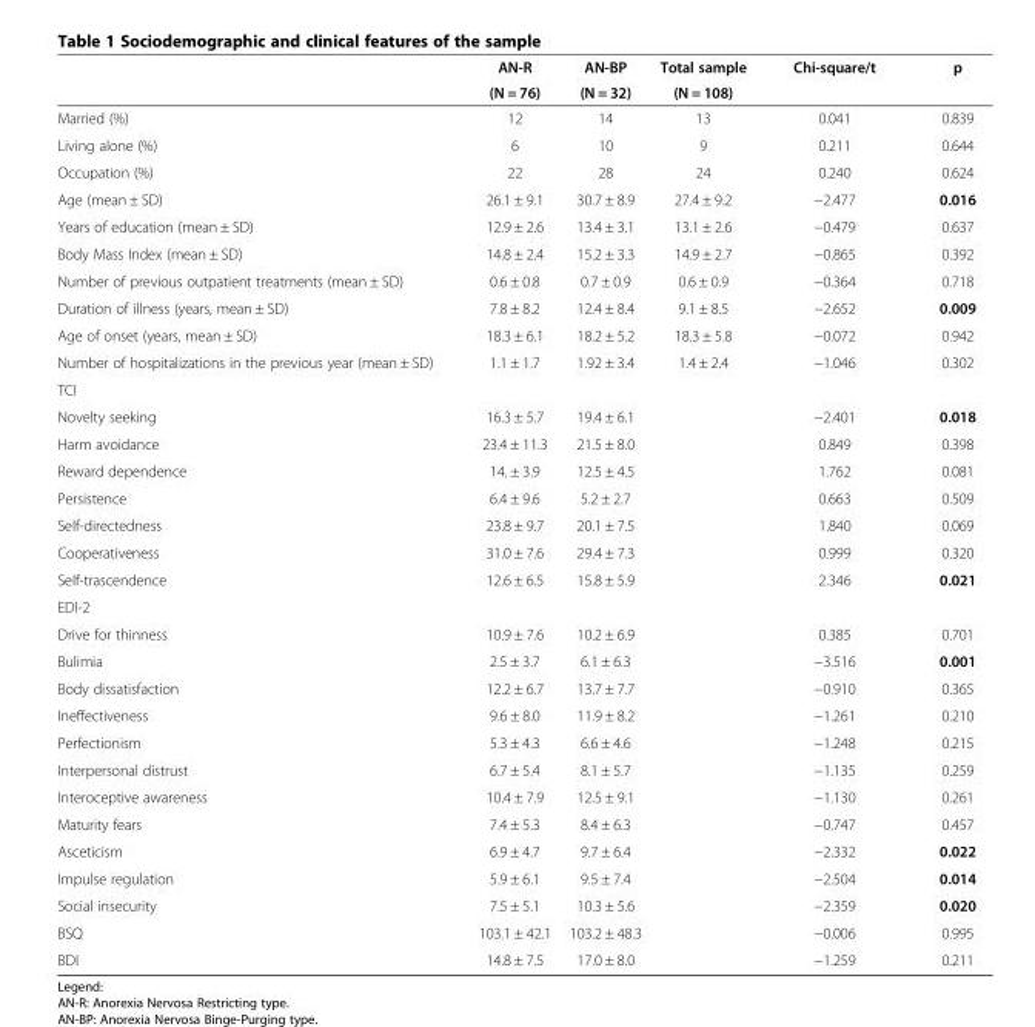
<table><thead><tr><td rowspan="2"></td><td rowspan="2">AN-R (N = 76)</td><td rowspan="2">AN-BP (N = 32)</td><td rowspan="2">Total sample (N = 108)</td><td rowspan="2">Chi-square/t</td><td rowspan="2">p</td></tr><tr></tr></thead><tbody><tr><td>Married (%)</td><td>12</td><td>14</td><td>13</td><td>0.041</td><td>0.839</td></tr><tr><td>Living alone (%)</td><td>6</td><td>10</td><td>9</td><td>0.211</td><td>0.644</td></tr><tr><td>Occupation (%)</td><td>22</td><td>28</td><td>24</td><td>0.240</td><td>0.624</td></tr><tr><td>Age (mean ± SD)</td><td>26.1 ± 9.1</td><td>30.7 ± 8.9</td><td>27.4 ± 9.2</td><td>−2.477</td><td>0.016</td></tr><tr><td>Years of education (mean ± SD)</td><td>12.9 ± 2.6</td><td>13.4 ± 3.1</td><td>13.1 ± 2.6</td><td>−0.479</td><td>0.637</td></tr><tr><td>Body Mass Index (mean ± SD)</td><td>14.8 ± 2.4</td><td>15.2 ± 3.3</td><td>14.9 ± 2.7</td><td>−0.865</td><td>0.392</td></tr><tr><td>Number of previous outpatient treatments (mean ± SD)</td><td>0.6 ± 0.8</td><td>0.7 ± 0.9</td><td>0.6 ± 0.9</td><td>−0.364</td><td>0.718</td></tr><tr><td>Duration of illness (years, mean ± SD)</td><td>7.8 ± 8.2</td><td>12.4 ± 8.4</td><td>9.1 ± 8.5</td><td>−2.652</td><td>0.009</td></tr><tr><td>Age of onset (years, mean ± SD)</td><td>18.3 ± 6.1</td><td>18.2 ± 5.2</td><td>18.3 ± 5.8</td><td>−0.072</td><td>0.942</td></tr><tr><td>Number of hospitalizations in the previous year (mean ± SD)</td><td>1.1 ± 1.7</td><td>1.92 ± 3.4</td><td>1.4 ± 2.4</td><td>−1.046</td><td>0.302</td></tr><tr><td colspan="6">TCI</td></tr><tr><td>Novelty seeking</td><td>16.3 ± 5.7</td><td>19.4 ± 6.1</td><td></td><td>−2.401</td><td>0.018</td></tr><tr><td>Harm avoidance</td><td>23.4 ± 11.3</td><td>21.5 ± 8.0</td><td></td><td>0.849</td><td>0.398</td></tr><tr><td>Reward dependence</td><td>14. ± 3.9</td><td>12.5 ± 4.5</td><td></td><td>1.762</td><td>0.081</td></tr><tr><td>Persistence</td><td>6.4 ± 9.6</td><td>5.2 ± 2.7</td><td></td><td>0.663</td><td>0.509</td></tr><tr><td>Self-directedness</td><td>23.8 ± 9.7</td><td>20.1 ± 7.5</td><td></td><td>1.840</td><td>0.069</td></tr><tr><td>Cooperativeness</td><td>31.0 ± 7.6</td><td>29.4 ± 7.3</td><td></td><td>0.999</td><td>0.320</td></tr><tr><td>Self-trascendence</td><td>12.6 ± 6.5</td><td>15.8 ± 5.9</td><td></td><td>2.346</td><td>0.021</td></tr><tr><td colspan="6">EDI-2</td></tr><tr><td>Drive for thinness</td><td>10.9 ± 7.6</td><td>10.2 ± 6.9</td><td></td><td>0.385</td><td>0.701</td></tr><tr><td>Bulimia</td><td>2.5 ± 3.7</td><td>6.1 ± 6.3</td><td></td><td>−3.516</td><td>0.001</td></tr><tr><td>Body dissatisfaction</td><td>12.2 ± 6.7</td><td>13.7 ± 7.7</td><td></td><td>−0.910</td><td>0.365</td></tr><tr><td>Ineffectiveness</td><td>9.6 ± 8.0</td><td>11.9 ± 8.2</td><td></td><td>−1.261</td><td>0.210</td></tr><tr><td>Perfectionism</td><td>5.3 ± 4.3</td><td>6.6 ± 4.6</td><td></td><td>−1.248</td><td>0.215</td></tr><tr><td>Interpersonal distrust</td><td>6.7 ± 5.4</td><td>8.1 ± 5.7</td><td></td><td>−1.135</td><td>0.259</td></tr><tr><td>Interoceptive awareness</td><td>10.4 ± 7.9</td><td>12.5 ± 9.1</td><td></td><td>−1.130</td><td>0.261</td></tr><tr><td>Maturity fears</td><td>7.4 ± 5.3</td><td>8.4 ± 6.3</td><td></td><td>−0.747</td><td>0.457</td></tr><tr><td>Asceticism</td><td>6.9 ± 4.7</td><td>9.7 ± 6.4</td><td></td><td>−2.332</td><td>0.022</td></tr><tr><td>Impulse regulation</td><td>5.9 ± 6.1</td><td>9.5 ± 7.4</td><td></td><td>−2.504</td><td>0.014</td></tr><tr><td>Social insecurity</td><td>7.5 ± 5.1</td><td>10.3 ± 5.6</td><td></td><td>−2.359</td><td>0.020</td></tr><tr><td>BSQ</td><td>103.1 ± 42.1</td><td>103.2 ± 48.3</td><td></td><td>−0.006</td><td>0.995</td></tr><tr><td>BDI</td><td>14.8 ± 7.5</td><td>17.0 ± 8.0</td><td></td><td>−1.259</td><td>0.211</td></tr></tbody></table>